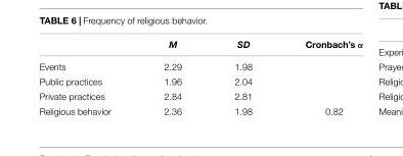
<table><thead><tr><td></td><td>M</td><td>SD</td><td>Cronbach’s α</td></tr></thead><tbody><tr><td>Events</td><td>2.29</td><td>1.98</td><td></td></tr><tr><td>Public practices</td><td>1.96</td><td>2.04</td><td></td></tr><tr><td>Private practices</td><td>2.84</td><td>2.81</td><td></td></tr><tr><td>Religious behavior</td><td>2.36</td><td>1.98</td><td>0.82</td></tr></tbody></table>